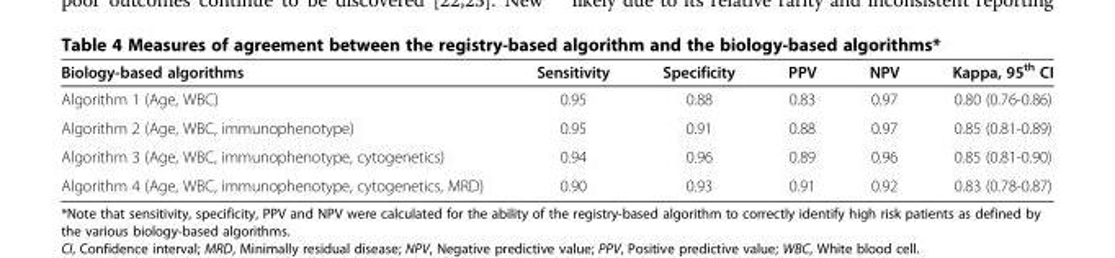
<table><thead><tr><td>Biology-based algorithms</td><td>Sensitivity</td><td>Specificity</td><td>PPV</td><td>NPV</td><td>Kappa, 95<sup>th</sup> CI</td></tr></thead><tbody><tr><td>Algorithm 1 (Age, WBC)</td><td>0.95</td><td>0.88</td><td>0.83</td><td>0.97</td><td>0.80 (0.76-0.86)</td></tr><tr><td>Algorithm 2 (Age, WBC, immunophenotype)</td><td>0.95</td><td>0.91</td><td>0.88</td><td>0.97</td><td>0.85 (0.81-0.89)</td></tr><tr><td>Algorithm 3 (Age, WBC, immunophenotype, cytogenetics)</td><td>0.94</td><td>0.96</td><td>0.89</td><td>0.96</td><td>0.85 (0.81-0.90)</td></tr><tr><td>Algorithm 4 (Age, WBC, immunophenotype, cytogenetics, MRD)</td><td>0.90</td><td>0.93</td><td>0.91</td><td>0.92</td><td>0.83 (0.78-0.87)</td></tr></tbody></table>